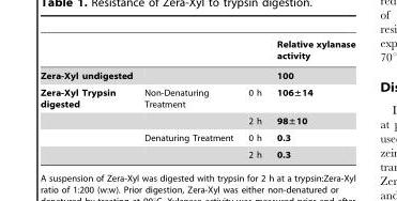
<table><thead><tr><td></td><td></td><td></td><td>Relative xylanase activity</td></tr></thead><tbody><tr><td>Zera-Xyl undigested</td><td colspan="2"></td><td>100</td></tr><tr><td rowspan="4">Zera-Xyl Trypsin digested</td><td>Non-Denaturing Treatment</td><td>0 h</td><td>106±14</td></tr><tr><td></td><td>2 h</td><td>98±10</td></tr><tr><td>Denaturing Treatment</td><td>0 h</td><td>0.3</td></tr><tr><td></td><td>2 h</td><td>0.3</td></tr></tbody></table>